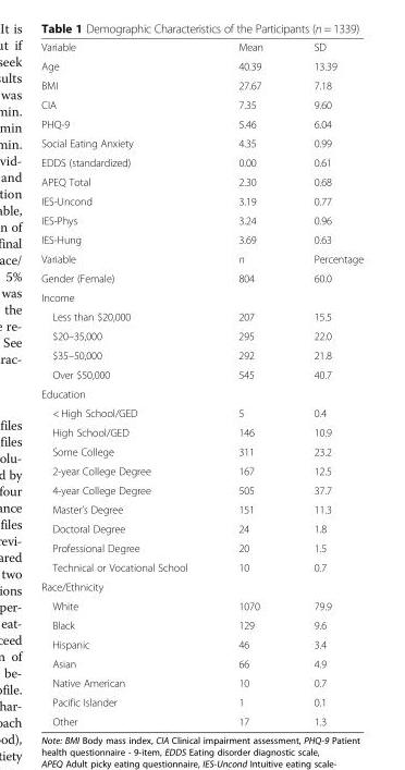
<table><tbody><tr><td>Variable</td><td>Mean</td><td>SD</td></tr><tr><td>Age</td><td>40.39</td><td>13.39</td></tr><tr><td>BMI</td><td>27.67</td><td>7.18</td></tr><tr><td>CIA</td><td>7.35</td><td>9.60</td></tr><tr><td>PHQ-9</td><td>5.46</td><td>6.04</td></tr><tr><td>Social Eating Anxiety</td><td>4.35</td><td>0.99</td></tr><tr><td>EDDS (standardized)</td><td>0.00</td><td>0.61</td></tr><tr><td>APEQ Total</td><td>2.30</td><td>0.68</td></tr><tr><td>IES-Uncond</td><td>3.19</td><td>0.77</td></tr><tr><td>IES-Phys</td><td>3.24</td><td>0.96</td></tr><tr><td>IES-Hung</td><td>3.69</td><td>0.63</td></tr><tr><td>Variable</td><td>n</td><td>Percentage</td></tr><tr><td>Gender (Female)</td><td>804</td><td>60.0</td></tr><tr><td colspan="3">Income</td></tr><tr><td>Less than $20,000</td><td>207</td><td>15.5</td></tr><tr><td>$20–35,000</td><td>295</td><td>22.0</td></tr><tr><td>$35–50,000</td><td>292</td><td>21.8</td></tr><tr><td>Over $50,000</td><td>545</td><td>40.7</td></tr><tr><td colspan="3">Education</td></tr><tr><td>&lt; High School/GED</td><td>5</td><td>0.4</td></tr><tr><td>High School/GED</td><td>146</td><td>10.9</td></tr><tr><td>Some College</td><td>311</td><td>23.2</td></tr><tr><td>2-year College Degree</td><td>167</td><td>12.5</td></tr><tr><td>4-year College Degree</td><td>505</td><td>37.7</td></tr><tr><td>Master’s Degree</td><td>151</td><td>11.3</td></tr><tr><td>Doctoral Degree</td><td>24</td><td>1.8</td></tr><tr><td>Professional Degree</td><td>20</td><td>1.5</td></tr><tr><td>Technical or Vocational School</td><td>10</td><td>0.7</td></tr><tr><td colspan="3">Race/Ethnicity</td></tr><tr><td>White</td><td>1070</td><td>79.9</td></tr><tr><td>Black</td><td>129</td><td>9.6</td></tr><tr><td>Hispanic</td><td>46</td><td>3.4</td></tr><tr><td>Asian</td><td>66</td><td>4.9</td></tr><tr><td>Native American</td><td>10</td><td>0.7</td></tr><tr><td>Pacific Islander</td><td>1</td><td>0.1</td></tr><tr><td>Other</td><td>17</td><td>1.3</td></tr></tbody></table>